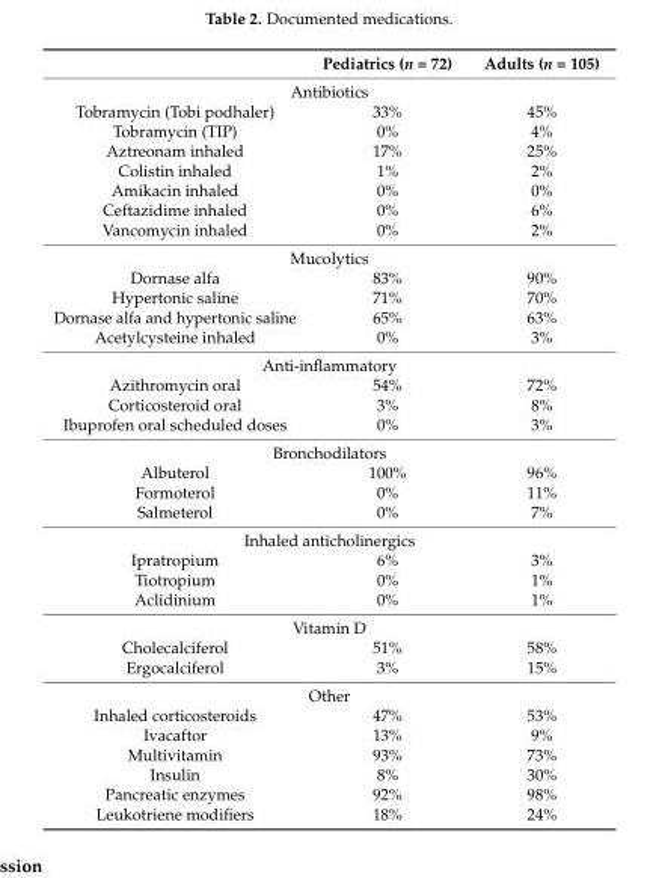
<table><thead><tr><td></td><td>Pediatrics (n = 72)</td><td>Adults (n = 105)</td></tr></thead><tbody><tr><td colspan="3">Antibiotics</td></tr><tr><td>Tobramycin (Tobi podhaler)</td><td>33%</td><td>45%</td></tr><tr><td>Tobramycin (TIP)</td><td>0%</td><td>4%</td></tr><tr><td>Aztreonam inhaled</td><td>17%</td><td>25%</td></tr><tr><td>Colistin inhaled</td><td>1%</td><td>2%</td></tr><tr><td>Amikacin inhaled</td><td>0%</td><td>0%</td></tr><tr><td>Ceftazidime inhaled</td><td>0%</td><td>6%</td></tr><tr><td>Vancomycin inhaled</td><td>0%</td><td>2%</td></tr><tr><td colspan="3">Mucolytics</td></tr><tr><td>Dornase alfa</td><td>83%</td><td>90%</td></tr><tr><td>Hypertonic saline</td><td>71%</td><td>70%</td></tr><tr><td>Dornase alfa and hypertonic saline</td><td>65%</td><td>63%</td></tr><tr><td>Acetylcysteine inhaled</td><td>0%</td><td>3%</td></tr><tr><td colspan="3">Anti-inflammatory</td></tr><tr><td>Azithromycin oral</td><td>54%</td><td>72%</td></tr><tr><td>Corticosteroid oral</td><td>3%</td><td>8%</td></tr><tr><td>Ibuprofen oral scheduled doses</td><td>0%</td><td>3%</td></tr><tr><td colspan="3">Bronchodilators</td></tr><tr><td>Albuterol</td><td>100%</td><td>96%</td></tr><tr><td>Formoterol</td><td>0%</td><td>11%</td></tr><tr><td>Salmeterol</td><td>0%</td><td>7%</td></tr><tr><td colspan="3">Inhaled anticholinergics</td></tr><tr><td>Ipratropium</td><td>6%</td><td>3%</td></tr><tr><td>Tiotropium</td><td>0%</td><td>1%</td></tr><tr><td>Aclidinium</td><td>0%</td><td>1%</td></tr><tr><td colspan="3">Vitamin D</td></tr><tr><td>Cholecalciferol</td><td>51%</td><td>58%</td></tr><tr><td>Ergocalciferol</td><td>3%</td><td>15%</td></tr><tr><td colspan="3">Other</td></tr><tr><td>Inhaled corticosteroids</td><td>47%</td><td>53%</td></tr><tr><td>Ivacaftor</td><td>13%</td><td>9%</td></tr><tr><td>Multivitamin</td><td>93%</td><td>73%</td></tr><tr><td>Insulin</td><td>8%</td><td>30%</td></tr><tr><td>Pancreatic enzymes</td><td>92%</td><td>98%</td></tr><tr><td>Leukotriene modifiers</td><td>18%</td><td>24%</td></tr></tbody></table>